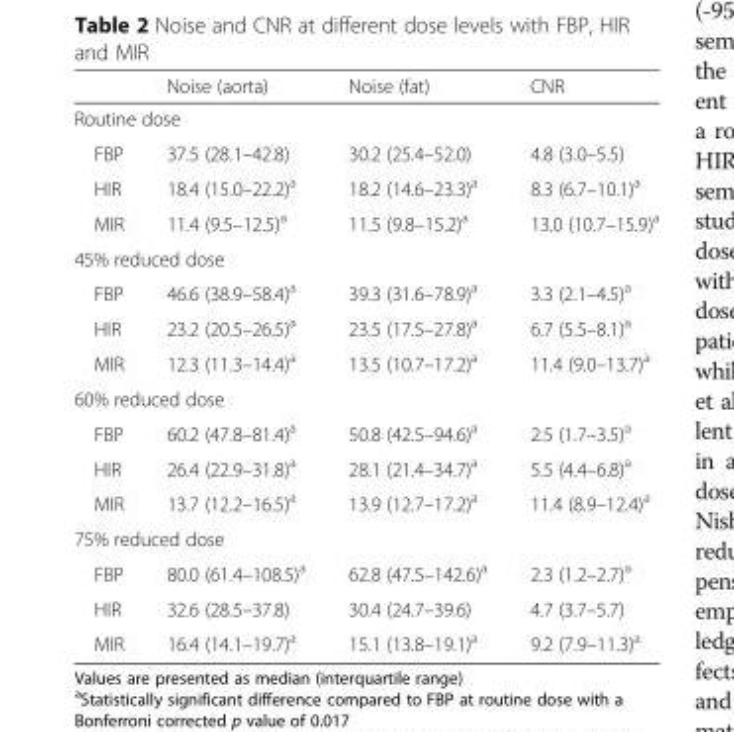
<table><thead><tr><td></td><td>Noise (aorta)</td><td>Noise (fat)</td><td>CNR</td></tr></thead><tbody><tr><td colspan="4">Routine dose</td></tr><tr><td>FBP</td><td>37.5 (28.1–42.8)</td><td>30.2 (25.4–52.0)</td><td>4.8 (3.0–5.5)</td></tr><tr><td>HIR</td><td>18.4 (15.0–22.2)<sup>a</sup></td><td>18.2 (14.6–23.3)<sup>a</sup></td><td>8.3 (6.7–10.1)<sup>a</sup></td></tr><tr><td>MIR</td><td>11.4 (9.5–12.5)<sup>a</sup></td><td>11.5 (9.8–15.2)<sup>a</sup></td><td>13.0 (10.7–15.9)<sup>a</sup></td></tr><tr><td colspan="4">45% reduced dose</td></tr><tr><td>FBP</td><td>46.6 (38.9–58.4)<sup>a</sup></td><td>39.3 (31.6–78.9)<sup>a</sup></td><td>3.3 (2.1–4.5)<sup>a</sup></td></tr><tr><td>HIR</td><td>23.2 (20.5–26.5)<sup>a</sup></td><td>23.5 (17.5–27.8)<sup>a</sup></td><td>6.7 (5.5–8.1)<sup>a</sup></td></tr><tr><td>MIR</td><td>12.3 (11.3–14.4)<sup>a</sup></td><td>13.5 (10.7–17.2)<sup>a</sup></td><td>11.4 (9.0–13.7)<sup>a</sup></td></tr><tr><td colspan="4">60% reduced dose</td></tr><tr><td>FBP</td><td>60.2 (47.8–81.4)<sup>a</sup></td><td>50.8 (42.5–94.6)<sup>a</sup></td><td>2.5 (1.7–3.5)<sup>a</sup></td></tr><tr><td>HIR</td><td>26.4 (22.9–31.8)<sup>a</sup></td><td>28.1 (21.4–34.7)<sup>a</sup></td><td>5.5 (4.4–6.8)<sup>a</sup></td></tr><tr><td>MIR</td><td>13.7 (12.2–16.5)<sup>a</sup></td><td>13.9 (12.7–17.2)<sup>a</sup></td><td>11.4 (8.9–12.4)<sup>a</sup></td></tr><tr><td colspan="4">75% reduced dose</td></tr><tr><td>FBP</td><td>80.0 (61.4–108.5)<sup>a</sup></td><td>62.8 (47.5–142.6)<sup>a</sup></td><td>2.3 (1.2–2.7)<sup>a</sup></td></tr><tr><td>HIR</td><td>32.6 (28.5–37.8)</td><td>30.4 (24.7–39.6)</td><td>4.7 (3.7–5.7)</td></tr><tr><td>MIR</td><td>16.4 (14.1–19.7)<sup>a</sup></td><td>15.1 (13.8–19.1)<sup>a</sup></td><td>9.2 (7.9–11.3)<sup>a</sup></td></tr></tbody></table>